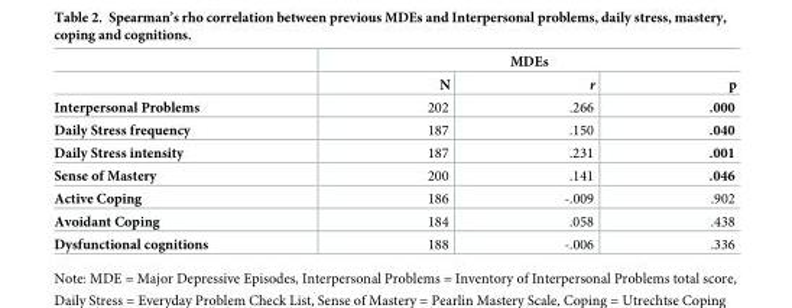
<table><thead><tr><td rowspan="2"></td><td colspan="3">MDEs</td></tr><tr><td>N</td><td>r</td><td>p</td></tr></thead><tbody><tr><td>Interpersonal Problems</td><td>202</td><td>.266</td><td>.000</td></tr><tr><td>Daily Stress frequency</td><td>187</td><td>.150</td><td>.040</td></tr><tr><td>Daily Stress intensity</td><td>187</td><td>.231</td><td>.001</td></tr><tr><td>Sense of Mastery</td><td>200</td><td>.141</td><td>.046</td></tr><tr><td>Active Coping</td><td>186</td><td>-.009</td><td>.902</td></tr><tr><td>Avoidant Coping</td><td>184</td><td>.058</td><td>.438</td></tr><tr><td>Dysfunctional cognitions</td><td>188</td><td>-.006</td><td>.336</td></tr></tbody></table>